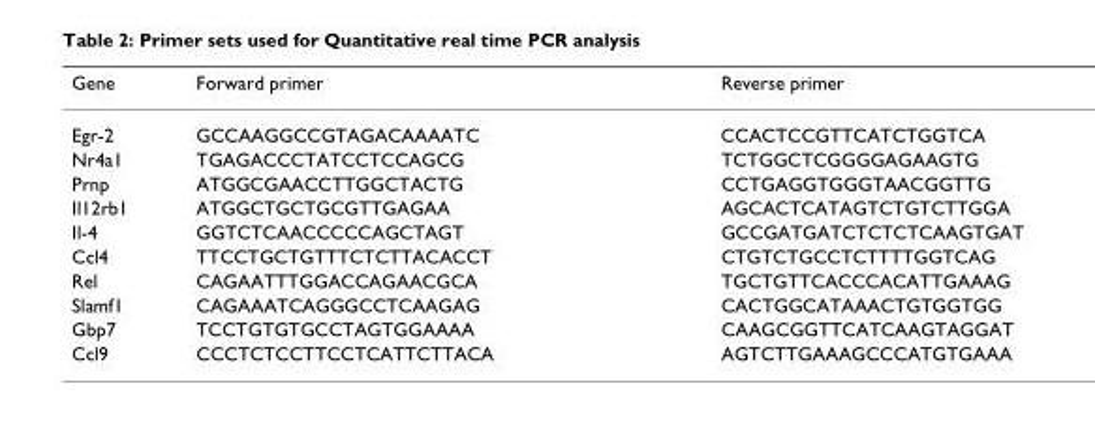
<table><thead><tr><td>Gene</td><td>Forward primer</td><td>Reverse primer</td></tr></thead><tbody><tr><td>Egr-2</td><td>GCCAAGGCCGTAGACAAAATC</td><td>CCACTCCGTTCATCTGGTCA</td></tr><tr><td>Nr4a1</td><td>TGAGACCCTATCCTCCAGCG</td><td>TCTGGCTCGGGGAGAAGTG</td></tr><tr><td>Prnp</td><td>ATGGCGAACCTTGGCTACTG</td><td>CCTGAGGTGGGTAACGGTTG</td></tr><tr><td>Il12rb1</td><td>ATGGCTGCTGCGTTGAGAA</td><td>AGCACTCATAGTCTGTCTTGGA</td></tr><tr><td>Il-4</td><td>GGTCTCAACCCCCAGCTAGT</td><td>GCCGATGATCTCTCTCAAGTGAT</td></tr><tr><td>Ccl4</td><td>TTCCTGCTGTTTCTCTTACACCT</td><td>CTGTCTGCCTCTTTTGGTCAG</td></tr><tr><td>Rel</td><td>CAGAATTTGGACCAGAACGCA</td><td>TGCTGTTCACCCACATTGAAAG</td></tr><tr><td>Slamf1</td><td>CAGAAATCAGGGCCTCAAGAG</td><td>CACTGGCATAAACTGTGGTGG</td></tr><tr><td>Gbp7</td><td>TCCTGTGTGCCTAGTGGAAAA</td><td>CAAGCGGTTCATCAAGTAGGAT</td></tr><tr><td>Ccl9</td><td>CCCTCTCCTTCCTCATTCTTACA</td><td>AGTCTTGAAAGCCCATGTGAAA</td></tr></tbody></table>